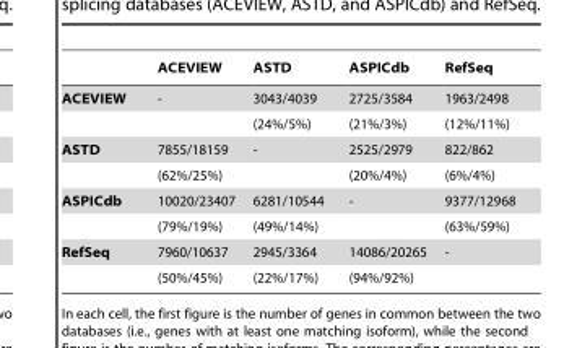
<table><thead><tr><td></td><td>ACEVIEW</td><td>ASTD</td><td>ASPICdb</td><td>RefSeq</td></tr></thead><tbody><tr><td rowspan="2">ACEVIEW</td><td>-</td><td>3043/4039</td><td>2725/3584</td><td>1963/2498</td></tr><tr><td></td><td>(24%/5%)</td><td>(21%/3%)</td><td>(12%/11%)</td></tr><tr><td rowspan="2">ASTD</td><td>7855/18159</td><td>-</td><td>2525/2979</td><td>822/862</td></tr><tr><td>(62%/25%)</td><td></td><td>(20%/4%)</td><td>(6%/4%)</td></tr><tr><td rowspan="2">ASPICdb</td><td>10020/23407</td><td>6281/10544</td><td>-</td><td>9377/12968</td></tr><tr><td>(79%/19%)</td><td>(49%/14%)</td><td></td><td>(63%/59%)</td></tr><tr><td rowspan="2">RefSeq</td><td>7960/10637</td><td>2945/3364</td><td>14086/20265</td><td>-</td></tr><tr><td>(50%/45%)</td><td>(22%/17%)</td><td>(94%/92%)</td><td></td></tr></tbody></table>